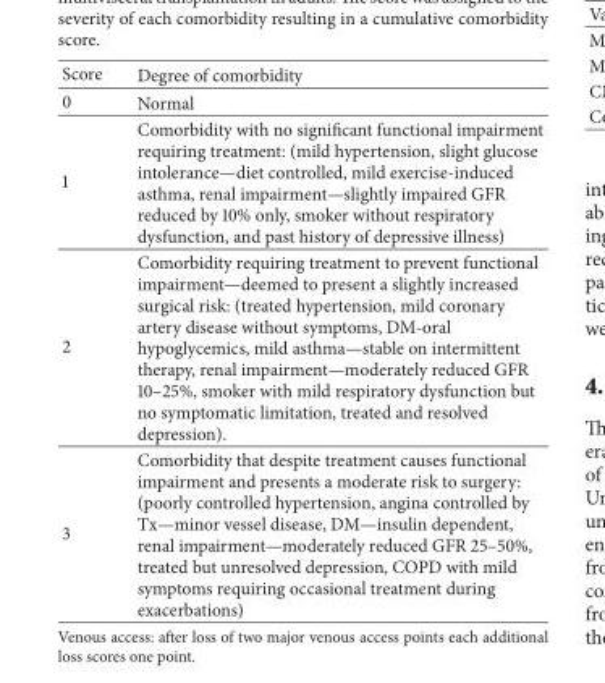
<table><thead><tr><td>Score</td><td>Degree of comorbidity</td></tr></thead><tbody><tr><td>0</td><td>Normal</td></tr><tr><td>1</td><td>Comorbidity with no significant functional impairment requiring treatment: (mild hypertension, slight glucose intolerance—diet controlled, mild exercise-induced asthma, renal impairment—slightly impaired GFR reduced by 10% only, smoker without respiratory dysfunction, and past history of depressive illness)</td></tr><tr><td>2</td><td>Comorbidity requiring treatment to prevent functional impairment—deemed to present a slightly increased surgical risk: (treated hypertension, mild coronary artery disease without symptoms, DM-oral hypoglycemics, mild asthma—stable on intermittent therapy, renal impairment—moderately reduced GFR 10–25%, smoker with mild respiratory dysfunction but no symptomatic limitation, treated and resolved depression).</td></tr><tr><td>3</td><td>Comorbidity that despite treatment causes functional impairment and presents a moderate risk to surgery: (poorly controlled hypertension, angina controlled by Tx—minor vessel disease, DM—insulin dependent, renal impairment—moderately reduced GFR 25–50%, treated but unresolved depression, COPD with mild symptoms requiring occasional treatment during exacerbations)</td></tr></tbody></table>